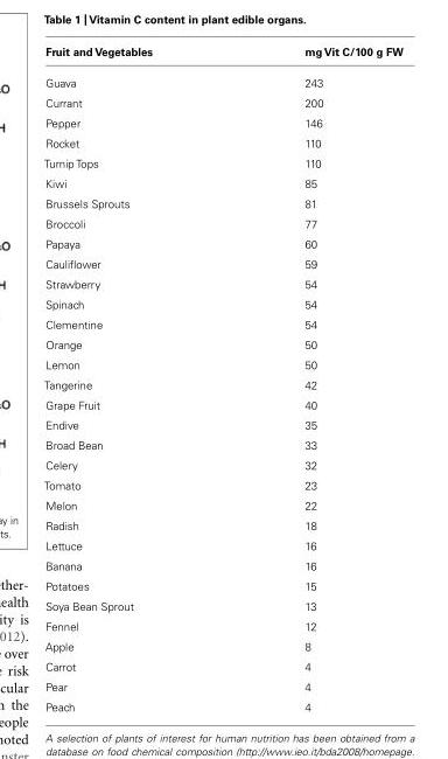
<table><thead><tr><td>Fruit and Vegetables</td><td>mg Vit C/100 g FW</td></tr></thead><tbody><tr><td>Guava</td><td>243</td></tr><tr><td>Currant</td><td>200</td></tr><tr><td>Pepper</td><td>146</td></tr><tr><td>Rocket</td><td>110</td></tr><tr><td>Turnip Tops</td><td>110</td></tr><tr><td>Kiwi</td><td>85</td></tr><tr><td>Brussels Sprouts</td><td>81</td></tr><tr><td>Broccoli</td><td>77</td></tr><tr><td>Papaya</td><td>60</td></tr><tr><td>Cauliflower</td><td>59</td></tr><tr><td>Strawberry</td><td>54</td></tr><tr><td>Spinach</td><td>54</td></tr><tr><td>Clementine</td><td>54</td></tr><tr><td>Orange</td><td>50</td></tr><tr><td>Lemon</td><td>50</td></tr><tr><td>Tangerine</td><td>42</td></tr><tr><td>Grape Fruit</td><td>40</td></tr><tr><td>Endive</td><td>35</td></tr><tr><td>Broad Bean</td><td>33</td></tr><tr><td>Celery</td><td>32</td></tr><tr><td>Tomato</td><td>23</td></tr><tr><td>Melon</td><td>22</td></tr><tr><td>Radish</td><td>18</td></tr><tr><td>Lettuce</td><td>16</td></tr><tr><td>Banana</td><td>16</td></tr><tr><td>Potatoes</td><td>15</td></tr><tr><td>Soya Bean Sprout</td><td>13</td></tr><tr><td>Fennel</td><td>12</td></tr><tr><td>Apple</td><td>8</td></tr><tr><td>Carrot</td><td>4</td></tr><tr><td>Pear</td><td>4</td></tr><tr><td>Peach</td><td>4</td></tr></tbody></table>